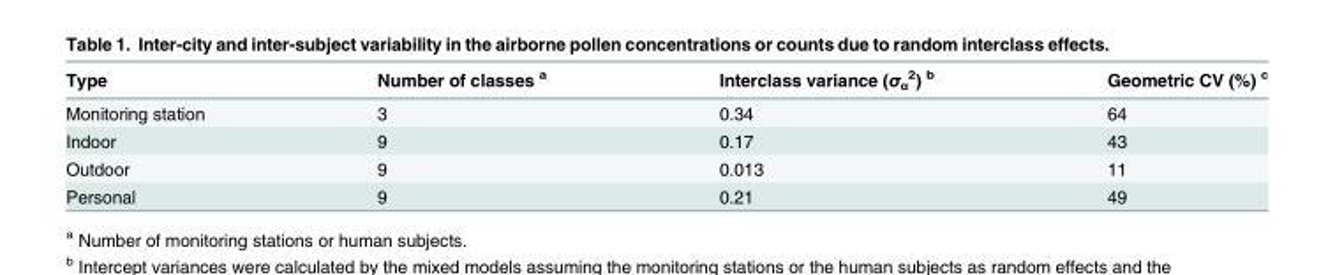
<table><thead><tr><td>Type</td><td>Number of classes <sup>a</sup></td><td>Interclass variance (σ<sub>α</sub> <sup>2</sup>) <sup>b</sup></td><td>Geometric CV (%) <sup>c</sup></td></tr></thead><tbody><tr><td>Monitoring station</td><td>3</td><td>0.34</td><td>64</td></tr><tr><td>Indoor</td><td>9</td><td>0.17</td><td>43</td></tr><tr><td>Outdoor</td><td>9</td><td>0.013</td><td>11</td></tr><tr><td>Personal</td><td>9</td><td>0.21</td><td>49</td></tr></tbody></table>